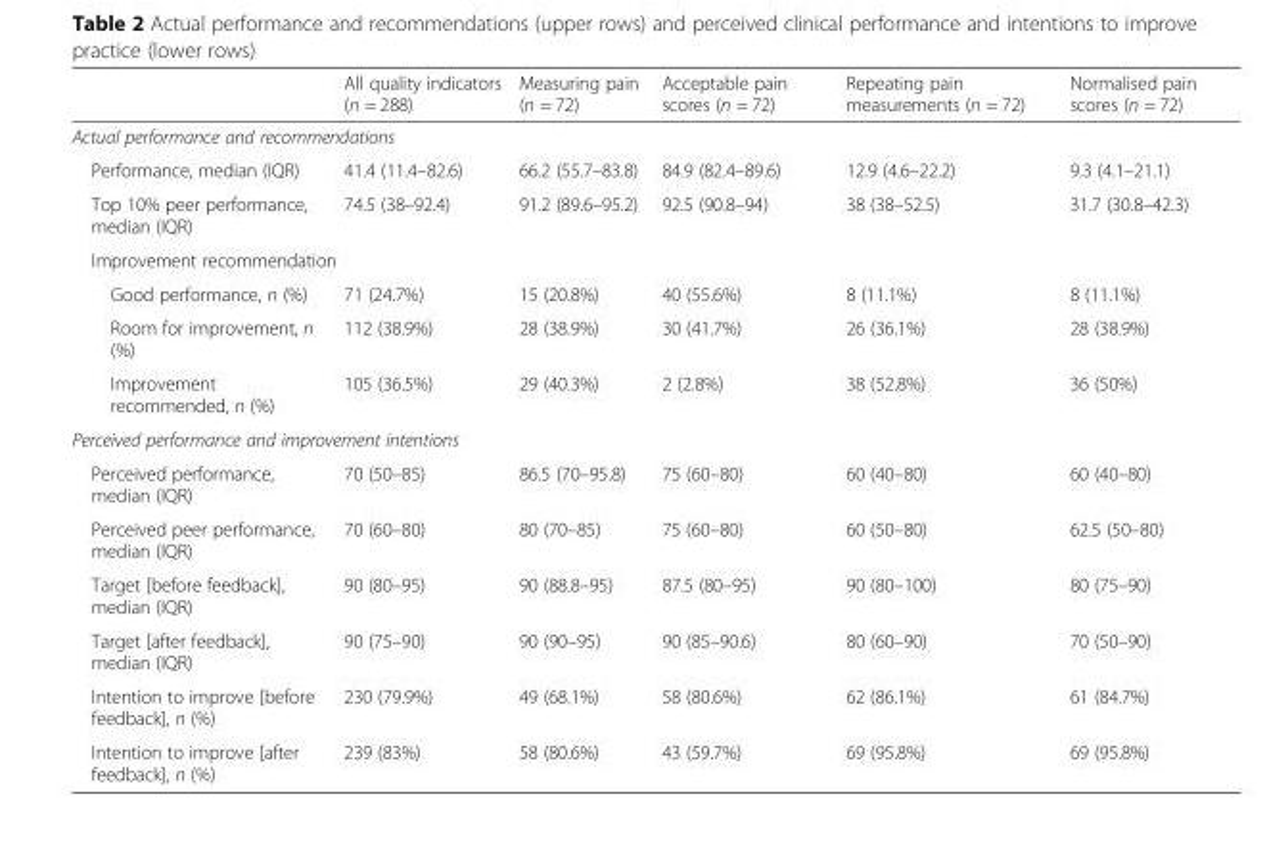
<table><thead><tr><td></td><td>All quality indicators (n = 288)</td><td>Measuring pain (n = 72)</td><td>Acceptable pain scores (n = 72)</td><td>Repeating pain measurements (n = 72)</td><td>Normalised pain scores (n = 72)</td></tr></thead><tbody><tr><td colspan="6">Actual performance and recommendations</td></tr><tr><td>Performance, median (IQR)</td><td>41.4 (11.4–82.6)</td><td>66.2 (55.7–83.8)</td><td>84.9 (82.4–89.6)</td><td>12.9 (4.6–22.2)</td><td>9.3 (4.1–21.1)</td></tr><tr><td>Top 10% peer performance, median (IQR)</td><td>74.5 (38–92.4)</td><td>91.2 (89.6–95.2)</td><td>92.5 (90.8–94)</td><td>38 (38–52.5)</td><td>31.7 (30.8–42.3)</td></tr><tr><td colspan="6">Improvement recommendation</td></tr><tr><td>Good performance, n (%)</td><td>71 (24.7%)</td><td>15 (20.8%)</td><td>40 (55.6%)</td><td>8 (11.1%)</td><td>8 (11.1%)</td></tr><tr><td>Room for improvement, n (%)</td><td>112 (38.9%)</td><td>28 (38.9%)</td><td>30 (41.7%)</td><td>26 (36.1%)</td><td>28 (38.9%)</td></tr><tr><td>Improvement recommended, n (%)</td><td>105 (36.5%)</td><td>29 (40.3%)</td><td>2 (2.8%)</td><td>38 (52.8%)</td><td>36 (50%)</td></tr><tr><td colspan="6">Perceived performance and improvement intentions</td></tr><tr><td>Perceived performance, median (IQR)</td><td>70 (50–85)</td><td>86.5 (70–95.8)</td><td>75 (60–80)</td><td>60 (40–80)</td><td>60 (40–80)</td></tr><tr><td>Perceived peer performance, median (IQR)</td><td>70 (60–80)</td><td>80 (70–85)</td><td>75 (60–80)</td><td>60 (50–80)</td><td>62.5 (50–80)</td></tr><tr><td>Target [before feedback], median (IQR)</td><td>90 (80–95)</td><td>90 (88.8–95)</td><td>87.5 (80–95)</td><td>90 (80–100)</td><td>80 (75–90)</td></tr><tr><td>Target [after feedback], median (IQR)</td><td>90 (75–90)</td><td>90 (90–95)</td><td>90 (85–90.6)</td><td>80 (60–90)</td><td>70 (50–90)</td></tr><tr><td>Intention to improve [before feedback], n (%)</td><td>230 (79.9%)</td><td>49 (68.1%)</td><td>58 (80.6%)</td><td>62 (86.1%)</td><td>61 (84.7%)</td></tr><tr><td>Intention to improve [after feedback], n (%)</td><td>239 (83%)</td><td>58 (80.6%)</td><td>43 (59.7%)</td><td>69 (95.8%)</td><td>69 (95.8%)</td></tr></tbody></table>